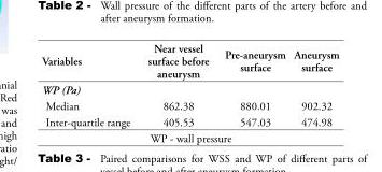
<table><thead><tr><td>Variables</td><td>Near vessel surface before aneurysm</td><td>Pre-aneurysm surface</td><td>Aneurysm surface</td></tr></thead><tbody><tr><td colspan="4">WP (Pa)</td></tr><tr><td>Median</td><td>862.38</td><td>880.01</td><td>902.32</td></tr><tr><td>Inter-quartile range</td><td>405.53</td><td>547.03</td><td>474.98</td></tr></tbody></table>